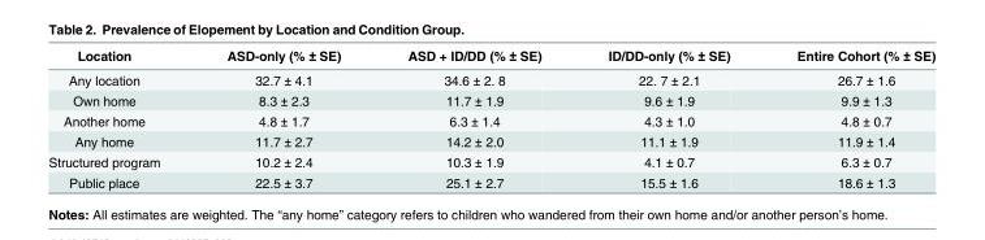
<table><thead><tr><td>Location</td><td>ASD-only (% ± SE)</td><td>ASD + ID/DD (% ± SE)</td><td>ID/DD-only (% ± SE)</td><td>Entire Cohort (% ± SE)</td></tr></thead><tbody><tr><td>Any location</td><td>32.7 ± 4.1</td><td>34.6 ± 2. 8</td><td>22. 7 ± 2.1</td><td>26.7 ± 1.6</td></tr><tr><td>Own home</td><td>8.3 ± 2.3</td><td>11.7 ± 1.9</td><td>9.6 ± 1.9</td><td>9.9 ± 1.3</td></tr><tr><td>Another home</td><td>4.8 ± 1.7</td><td>6.3 ± 1.4</td><td>4.3 ± 1.0</td><td>4.8 ± 0.7</td></tr><tr><td>Any home</td><td>11.7 ± 2.7</td><td>14.2 ± 2.0</td><td>11.1 ± 1.9</td><td>11.9 ± 1.4</td></tr><tr><td>Structured program</td><td>10.2 ± 2.4</td><td>10.3 ± 1.9</td><td>4.1 ± 0.7</td><td>6.3 ± 0.7</td></tr><tr><td>Public place</td><td>22.5 ± 3.7</td><td>25.1 ± 2.7</td><td>15.5 ± 1.6</td><td>18.6 ± 1.3</td></tr></tbody></table>